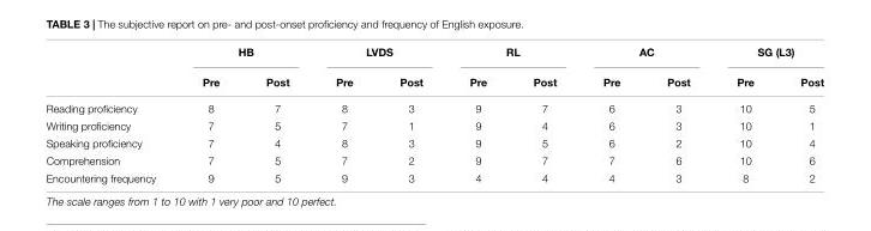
<table><thead><tr><td rowspan="2"></td><td colspan="2">HB</td><td colspan="2">LVDS</td><td colspan="2">RL</td><td colspan="2">AC</td><td colspan="2">SG (L3)</td></tr><tr><td>Pre</td><td>Post</td><td>Pre</td><td>Post</td><td>Pre</td><td>Post</td><td>Pre</td><td>Post</td><td>Pre</td><td>Post</td></tr></thead><tbody><tr><td>Reading proficiency</td><td>8</td><td>7</td><td>8</td><td>3</td><td>9</td><td>7</td><td>6</td><td>3</td><td>10</td><td>5</td></tr><tr><td>Writing proficiency</td><td>7</td><td>5</td><td>7</td><td>1</td><td>9</td><td>4</td><td>6</td><td>3</td><td>10</td><td>1</td></tr><tr><td>Speaking proficiency</td><td>7</td><td>4</td><td>8</td><td>3</td><td>9</td><td>5</td><td>6</td><td>2</td><td>10</td><td>4</td></tr><tr><td>Comprehension</td><td>7</td><td>5</td><td>7</td><td>2</td><td>9</td><td>7</td><td>7</td><td>6</td><td>10</td><td>6</td></tr><tr><td>Encountering frequency</td><td>9</td><td>5</td><td>9</td><td>3</td><td>4</td><td>4</td><td>4</td><td>3</td><td>8</td><td>2</td></tr></tbody></table>